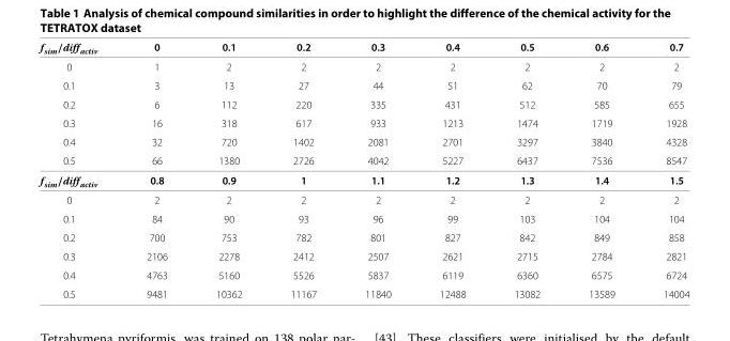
<table><thead><tr><td>f<sub>sim</sub>/diff<sub>activ</sub></td><td>0</td><td>0.1</td><td>0.2</td><td>0.3</td><td>0.4</td><td>0.5</td><td>0.6</td><td>0.7</td></tr></thead><tbody><tr><td>0</td><td>1</td><td>2</td><td>2</td><td>2</td><td>2</td><td>2</td><td>2</td><td>2</td></tr><tr><td>0.1</td><td>3</td><td>13</td><td>27</td><td>44</td><td>51</td><td>62</td><td>70</td><td>79</td></tr><tr><td>0.2</td><td>6</td><td>112</td><td>220</td><td>335</td><td>431</td><td>512</td><td>585</td><td>655</td></tr><tr><td>0.3</td><td>16</td><td>318</td><td>617</td><td>933</td><td>1213</td><td>1474</td><td>1719</td><td>1928</td></tr><tr><td>0.4</td><td>32</td><td>720</td><td>1402</td><td>2081</td><td>2701</td><td>3297</td><td>3840</td><td>4328</td></tr><tr><td>0.5</td><td>66</td><td>1380</td><td>2726</td><td>4042</td><td>5227</td><td>6437</td><td>7536</td><td>8547</td></tr><tr><td>f<sub>sim</sub>/diff<sub>activ</sub></td><td>0.8</td><td>0.9</td><td>1</td><td>1.1</td><td>1.2</td><td>1.3</td><td>1.4</td><td>1.5</td></tr><tr><td>0</td><td>2</td><td>2</td><td>2</td><td>2</td><td>2</td><td>2</td><td>2</td><td>2</td></tr><tr><td>0.1</td><td>84</td><td>90</td><td>93</td><td>96</td><td>99</td><td>103</td><td>104</td><td>104</td></tr><tr><td>0.2</td><td>700</td><td>753</td><td>782</td><td>801</td><td>827</td><td>842</td><td>849</td><td>858</td></tr><tr><td>0.3</td><td>2106</td><td>2278</td><td>2412</td><td>2507</td><td>2621</td><td>2715</td><td>2784</td><td>2821</td></tr><tr><td>0.4</td><td>4763</td><td>5160</td><td>5526</td><td>5837</td><td>6119</td><td>6360</td><td>6575</td><td>6724</td></tr><tr><td>0.5</td><td>9481</td><td>10362</td><td>11167</td><td>11840</td><td>12488</td><td>13082</td><td>13589</td><td>14004</td></tr></tbody></table>